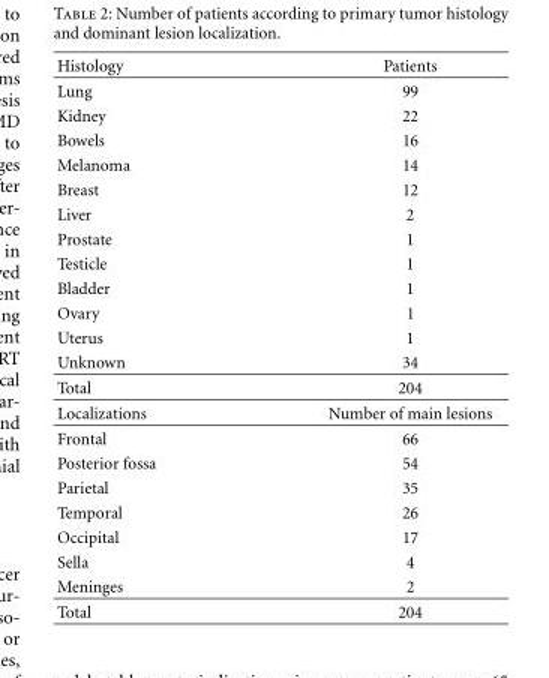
<table><thead><tr><td>Histology</td><td>Patients</td></tr></thead><tbody><tr><td>Lung</td><td>99</td></tr><tr><td>Kidney</td><td>22</td></tr><tr><td>Bowels</td><td>16</td></tr><tr><td>Melanoma</td><td>14</td></tr><tr><td>Breast</td><td>12</td></tr><tr><td>Liver</td><td>2</td></tr><tr><td>Prostate</td><td>1</td></tr><tr><td>Testicle</td><td>1</td></tr><tr><td>Bladder</td><td>1</td></tr><tr><td>Ovary</td><td>1</td></tr><tr><td>Uterus</td><td>1</td></tr><tr><td>Unknown</td><td>34</td></tr><tr><td>Total</td><td>204</td></tr><tr><td>Localizations</td><td>Number of main lesions</td></tr><tr><td>Frontal</td><td>66</td></tr><tr><td>Posterior fossa</td><td>54</td></tr><tr><td>Parietal</td><td>35</td></tr><tr><td>Temporal</td><td>26</td></tr><tr><td>Occipital</td><td>17</td></tr><tr><td>Sella</td><td>4</td></tr><tr><td>Meninges</td><td>2</td></tr><tr><td>Total</td><td>204</td></tr></tbody></table>